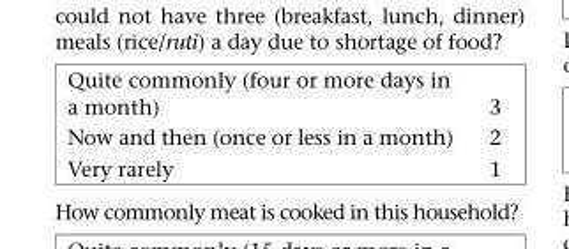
<table><tbody><tr><td>Quite commonly (four or more days in a month)</td><td>3</td></tr><tr><td>Now and then (once or less in a month)</td><td>2</td></tr><tr><td>Very rarely</td><td>1</td></tr></tbody></table>